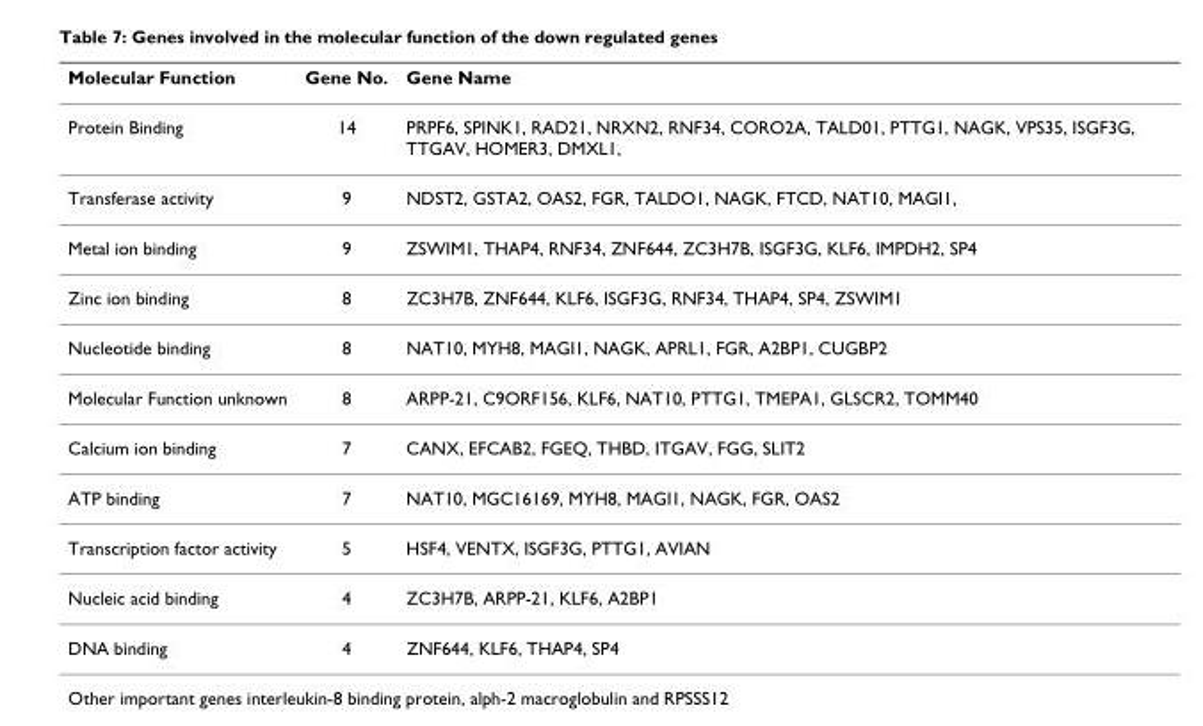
<table><thead><tr><td>Molecular Function</td><td>Gene No.</td><td>Gene Name</td></tr></thead><tbody><tr><td>Protein Binding</td><td>14</td><td>PRPF6, SPINK1, RAD21, NRXN2, RNF34, CORO2A, TALD01, PTTG1, NAGK, VPS35, ISGF3G, TTGAV, HOMER3, DMXL1,</td></tr><tr><td>Transferase activity</td><td>9</td><td>NDST2, GSTA2, OAS2, FGR, TALDO1, NAGK, FTCD, NAT10, MAGI1,</td></tr><tr><td>Metal ion binding</td><td>9</td><td>ZSWIM1, THAP4, RNF34, ZNF644, ZC3H7B, ISGF3G, KLF6, IMPDH2, SP4</td></tr><tr><td>Zinc ion binding</td><td>8</td><td>ZC3H7B, ZNF644, KLF6, ISGF3G, RNF34, THAP4, SP4, ZSWIM1</td></tr><tr><td>Nucleotide binding</td><td>8</td><td>NAT10, MYH8, MAGI1, NAGK, APRL1, FGR, A2BP1, CUGBP2</td></tr><tr><td>Molecular Function unknown</td><td>8</td><td>ARPP-21, C9ORF156, KLF6, NAT10, PTTG1, TMEPA1, GLSCR2, TOMM40</td></tr><tr><td>Calcium ion binding</td><td>7</td><td>CANX, EFCAB2, FGEQ, THBD, ITGAV, FGG, SLIT2</td></tr><tr><td>ATP binding</td><td>7</td><td>NAT10, MGC16169, MYH8, MAGI1, NAGK, FGR, OAS2</td></tr><tr><td>Transcription factor activity</td><td>5</td><td>HSF4, VENTX, ISGF3G, PTTG1, AVIAN</td></tr><tr><td>Nucleic acid binding</td><td>4</td><td>ZC3H7B, ARPP-21, KLF6, A2BP1</td></tr><tr><td>DNA binding</td><td>4</td><td>ZNF644, KLF6, THAP4, SP4</td></tr></tbody></table>